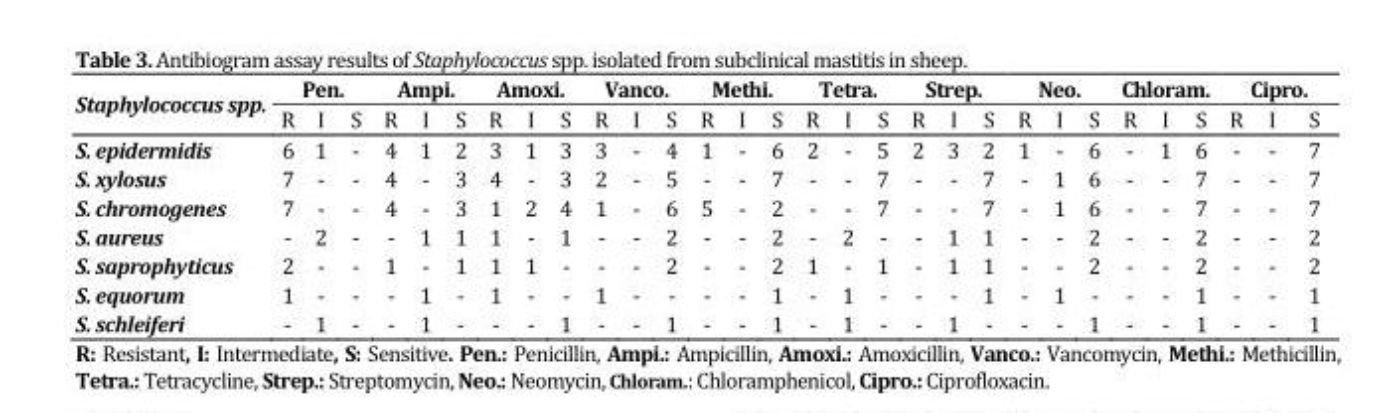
<table><thead><tr><td rowspan="2">Staphylococcus spp.</td><td colspan="3">Pen.</td><td colspan="3">Ampi.</td><td colspan="3">Amoxi.</td><td colspan="3">Vanco.</td><td colspan="3">Methi.</td><td colspan="3">Tetra.</td><td colspan="3">Strep.</td><td colspan="3">Neo.</td><td colspan="3">Chloram.</td><td colspan="3">Cipro.</td></tr><tr><td>R</td><td>I</td><td>S</td><td>R</td><td>I</td><td>S</td><td>R</td><td>I</td><td>S</td><td>R</td><td>I</td><td>S</td><td>R</td><td>I</td><td>S</td><td>R</td><td>I</td><td>S</td><td>R</td><td>I</td><td>S</td><td>R</td><td>I</td><td>S</td><td>R</td><td>I</td><td>S</td><td>R</td><td>I</td><td>S</td></tr></thead><tbody><tr><td>S. epidermidis</td><td>6</td><td>1</td><td>-</td><td>4</td><td>1</td><td>2</td><td>3</td><td>1</td><td>3</td><td>3</td><td>-</td><td>4</td><td>1</td><td>-</td><td>6</td><td>2</td><td>-</td><td>5</td><td>2</td><td>3</td><td>2</td><td>1</td><td>-</td><td>6</td><td>-</td><td>1</td><td>6</td><td>-</td><td>-</td><td>7</td></tr><tr><td>S. xylosus</td><td>7</td><td>-</td><td>-</td><td>4</td><td>-</td><td>3</td><td>4</td><td>-</td><td>3</td><td>2</td><td>-</td><td>5</td><td>-</td><td>-</td><td>7</td><td>-</td><td>-</td><td>7</td><td>-</td><td>-</td><td>7</td><td>-</td><td>1</td><td>6</td><td>-</td><td>-</td><td>7</td><td>-</td><td>-</td><td>7</td></tr><tr><td>S. chromogenes</td><td>7</td><td>-</td><td>-</td><td>4</td><td>-</td><td>3</td><td>1</td><td>2</td><td>4</td><td>1</td><td>-</td><td>6</td><td>5</td><td>-</td><td>2</td><td>-</td><td>-</td><td>7</td><td>-</td><td>-</td><td>7</td><td>-</td><td>1</td><td>6</td><td>-</td><td>-</td><td>7</td><td>-</td><td>-</td><td>7</td></tr><tr><td>S. aureus</td><td>-</td><td>2</td><td>-</td><td>-</td><td>1</td><td>1</td><td>1</td><td>-</td><td>1</td><td>-</td><td>-</td><td>2</td><td>-</td><td>-</td><td>2</td><td>-</td><td>2</td><td>-</td><td>-</td><td>1</td><td>1</td><td>-</td><td>-</td><td>2</td><td>-</td><td>-</td><td>2</td><td>-</td><td>-</td><td>2</td></tr><tr><td>S. saprophyticus</td><td>2</td><td>-</td><td>-</td><td>1</td><td>-</td><td>1</td><td>1</td><td>1</td><td>-</td><td>-</td><td>-</td><td>2</td><td>-</td><td>-</td><td>2</td><td>1</td><td>-</td><td>1</td><td>-</td><td>1</td><td>1</td><td>-</td><td>-</td><td>2</td><td>-</td><td>-</td><td>2</td><td>-</td><td>-</td><td>2</td></tr><tr><td>S. equorum</td><td>1</td><td>-</td><td>-</td><td>-</td><td>1</td><td>-</td><td>1</td><td>-</td><td>-</td><td>1</td><td>-</td><td>-</td><td>-</td><td>-</td><td>1</td><td>-</td><td>1</td><td>-</td><td>-</td><td>-</td><td>1</td><td>-</td><td>1</td><td>-</td><td>-</td><td>-</td><td>1</td><td>-</td><td>-</td><td>1</td></tr><tr><td>S. schleiferi</td><td>-</td><td>1</td><td>-</td><td>-</td><td>1</td><td>-</td><td>-</td><td>-</td><td>1</td><td>-</td><td>-</td><td>1</td><td>-</td><td>-</td><td>1</td><td>-</td><td>1</td><td>-</td><td>-</td><td>1</td><td>-</td><td>-</td><td>-</td><td>1</td><td>-</td><td>-</td><td>1</td><td>-</td><td>-</td><td>1</td></tr></tbody></table>